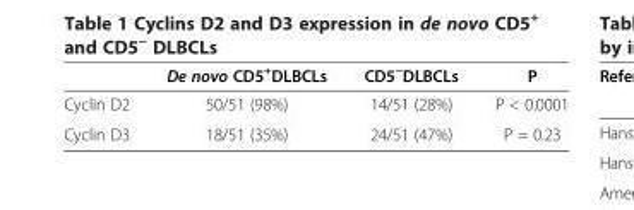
<table><thead><tr><td></td><td>De novo CD5<sup>+</sup>DLBCLs</td><td>CD5<sup>−</sup>DLBCLs</td><td>P</td></tr></thead><tbody><tr><td>Cyclin D2</td><td>50/51 (98%)</td><td>14/51 (28%)</td><td>P &lt; 0.0001</td></tr><tr><td>Cyclin D3</td><td>18/51 (35%)</td><td>24/51 (47%)</td><td>P = 0.23</td></tr></tbody></table>